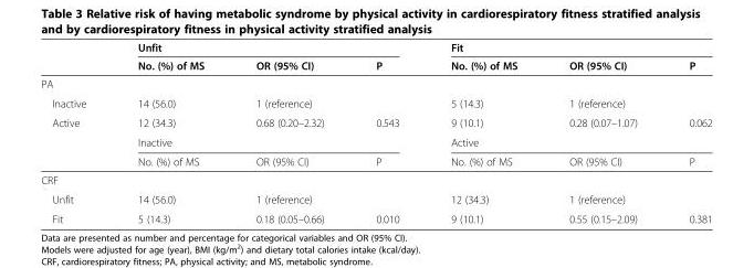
<table><thead><tr><td rowspan="2"></td><td rowspan="2">Unfit No. (%) of MS</td><td rowspan="2">OR (95% CI)</td><td rowspan="2">P</td><td colspan="3">Fit</td></tr><tr><td>No. (%) of MS</td><td>OR (95% CI)</td><td>P</td></tr></thead><tbody><tr><td colspan="7">PA</td></tr><tr><td>Inactive</td><td>14 (56.0)</td><td>1 (reference)</td><td></td><td>5 (14.3)</td><td>1 (reference)</td><td></td></tr><tr><td rowspan="3">Active</td><td>12 (34.3)</td><td>0.68 (0.20–2.32)</td><td>0.543</td><td>9 (10.1)</td><td>0.28 (0.07–1.07)</td><td>0.062</td></tr><tr><td>Inactive</td><td></td><td></td><td>Active</td><td></td><td></td></tr><tr><td>No. (%) of MS</td><td>OR (95% CI)</td><td>P</td><td>No. (%) of MS</td><td>OR (95% CI)</td><td>P</td></tr><tr><td colspan="7">CRF</td></tr><tr><td>Unfit</td><td>14 (56.0)</td><td>1 (reference)</td><td></td><td>12 (34.3)</td><td>1 (reference)</td><td></td></tr><tr><td>Fit</td><td>5 (14.3)</td><td>0.18 (0.05–0.66)</td><td>0.010</td><td>9 (10.1)</td><td>0.55 (0.15–2.09)</td><td>0.381</td></tr></tbody></table>